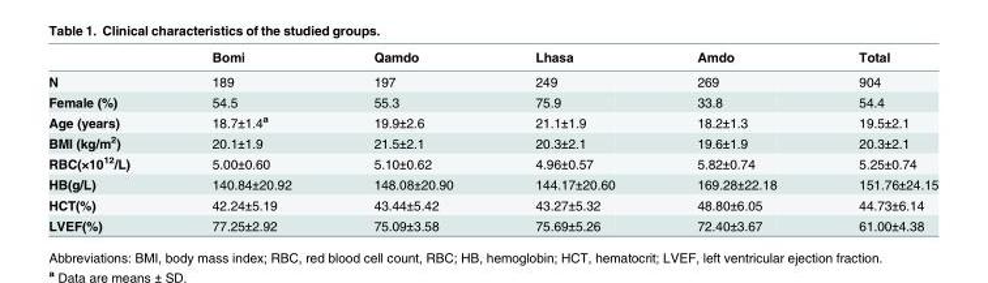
<table><thead><tr><td></td><td>Bomi</td><td>Qamdo</td><td>Lhasa</td><td>Amdo</td><td>Total</td></tr></thead><tbody><tr><td>N</td><td>189</td><td>197</td><td>249</td><td>269</td><td>904</td></tr><tr><td>Female (%)</td><td>54.5</td><td>55.3</td><td>75.9</td><td>33.8</td><td>54.4</td></tr><tr><td>Age (years)</td><td>18.7±1.4<sup>a</sup></td><td>19.9±2.6</td><td>21.1±1.9</td><td>18.2±1.3</td><td>19.5±2.1</td></tr><tr><td>BMI (kg/m<sup>2</sup>)</td><td>20.1±1.9</td><td>21.5±2.1</td><td>20.3±2.1</td><td>19.6±1.9</td><td>20.3±2.1</td></tr><tr><td>RBC(×10<sup>12</sup>/L)</td><td>5.00±0.60</td><td>5.10±0.62</td><td>4.96±0.57</td><td>5.82±0.74</td><td>5.25±0.74</td></tr><tr><td>HB(g/L)</td><td>140.84±20.92</td><td>148.08±20.90</td><td>144.17±20.60</td><td>169.28±22.18</td><td>151.76±24.15</td></tr><tr><td>HCT(%)</td><td>42.24±5.19</td><td>43.44±5.42</td><td>43.27±5.32</td><td>48.80±6.05</td><td>44.73±6.14</td></tr><tr><td>LVEF(%)</td><td>77.25±2.92</td><td>75.09±3.58</td><td>75.69±5.26</td><td>72.40±3.67</td><td>61.00±4.38</td></tr></tbody></table>